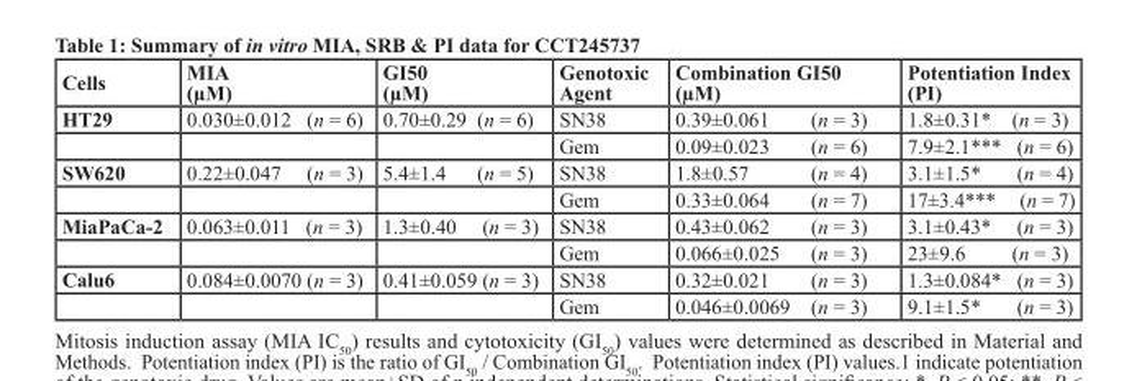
<table><thead><tr><td>Cells</td><td>MIA (µM)</td><td>GI50 (µM)</td><td>Genotoxic Agent</td><td>Combination GI50 (µM)</td><td>Potentiation Index (PI)</td></tr></thead><tbody><tr><td rowspan="2">HT29</td><td>0.030±0.012 (n = 6)</td><td>0.70±0.29 (n = 6)</td><td>SN38</td><td>0.39±0.061 (n = 3)</td><td>1.8±0.31* (n = 3)</td></tr><tr><td></td><td></td><td>Gem</td><td>0.09±0.023 (n = 6)</td><td>7.9±2.1*** (n = 6)</td></tr><tr><td rowspan="2">SW620</td><td>0.22±0.047 (n = 3)</td><td>5.4±1.4 (n = 5)</td><td>SN38</td><td>1.8±0.57 (n = 4)</td><td>3.1±1.5* (n = 4)</td></tr><tr><td></td><td></td><td>Gem</td><td>0.33±0.064 (n = 7)</td><td>17±3.4*** (n = 7)</td></tr><tr><td rowspan="2">MiaPaCa-2</td><td>0.063±0.011 (n = 3)</td><td>1.3±0.40 (n = 3)</td><td>SN38</td><td>0.43±0.062 (n = 3)</td><td>3.1±0.43* (n = 3)</td></tr><tr><td></td><td></td><td>Gem</td><td>0.066±0.025 (n = 3)</td><td>23±9.6 (n = 3)</td></tr><tr><td rowspan="2">Calu6</td><td>0.084±0.0070 (n = 3)</td><td>0.41±0.059 (n = 3)</td><td>SN38</td><td>0.32±0.021 (n = 3)</td><td>1.3±0.084* (n = 3)</td></tr><tr><td></td><td></td><td>Gem</td><td>0.046±0.0069 (n = 3)</td><td>9.1±1.5* (n = 3)</td></tr></tbody></table>